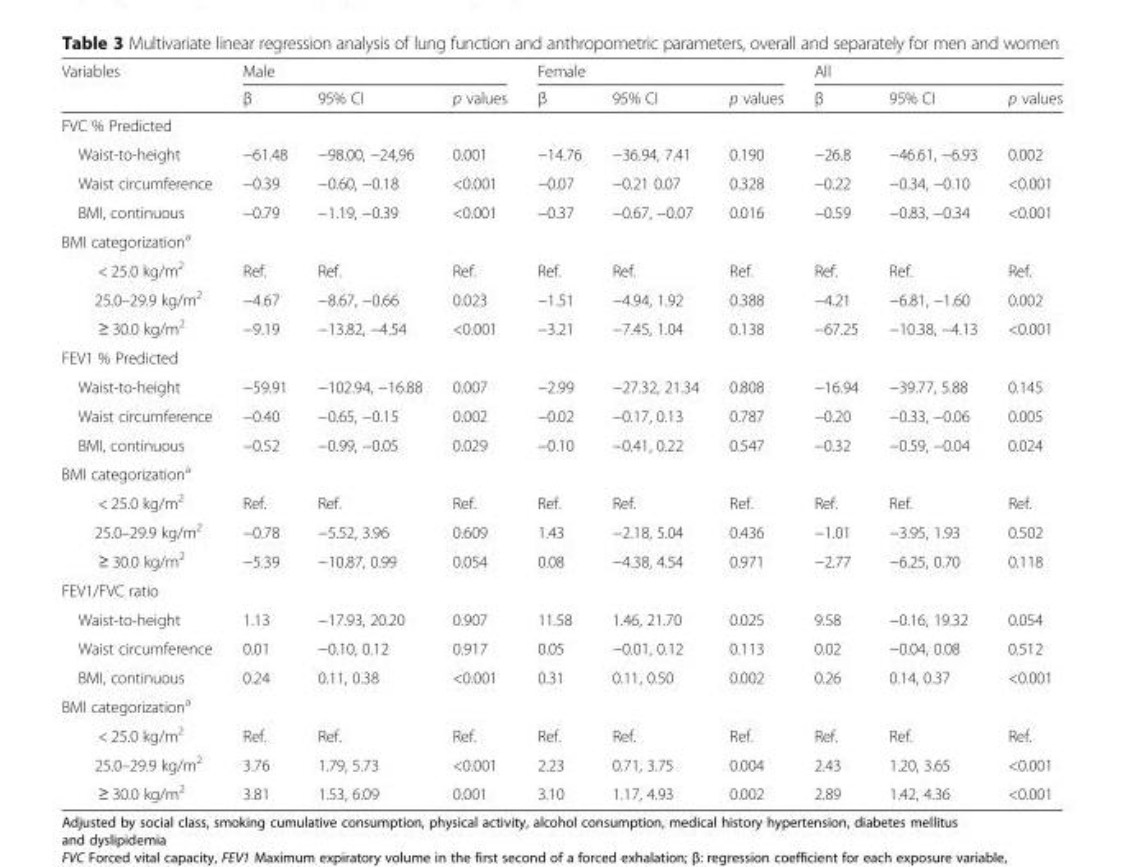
<table><thead><tr><td rowspan="2">Variables</td><td colspan="3">Male</td><td colspan="3">Female</td><td colspan="3">All</td></tr><tr><td>β</td><td>95% CI</td><td>p values</td><td>β</td><td>95% CI</td><td>p values</td><td>β</td><td>95% CI</td><td>p values</td></tr></thead><tbody><tr><td colspan="10">FVC % Predicted</td></tr><tr><td>Waist-to-height</td><td>−61.48</td><td>−98.00, −24,96</td><td>0.001</td><td>−14.76</td><td>−36.94, 7.41</td><td>0.190</td><td>−26.8</td><td>−46.61, −6.93</td><td>0.002</td></tr><tr><td>Waist circumference</td><td>−0.39</td><td>−0.60, −0.18</td><td>&lt;0.001</td><td>−0.07</td><td>−0.21 0.07</td><td>0.328</td><td>−0.22</td><td>−0.34, −0.10</td><td>&lt;0.001</td></tr><tr><td>BMI, continuous</td><td>−0.79</td><td>−1.19, −0.39</td><td>&lt;0.001</td><td>−0.37</td><td>−0.67, −0.07</td><td>0.016</td><td>−0.59</td><td>−0.83, −0.34</td><td>&lt;0.001</td></tr><tr><td colspan="10">BMI categorization<sup>a</sup></td></tr><tr><td>&lt; 25.0 kg/m<sup>2</sup></td><td>Ref.</td><td>Ref.</td><td>Ref.</td><td>Ref.</td><td>Ref.</td><td>Ref.</td><td>Ref.</td><td>Ref.</td><td>Ref.</td></tr><tr><td>25.0–29.9 kg/m<sup>2</sup></td><td>−4.67</td><td>−8.67, −0.66</td><td>0.023</td><td>−1.51</td><td>−4.94, 1.92</td><td>0.388</td><td>−4.21</td><td>−6.81, −1.60</td><td>0.002</td></tr><tr><td>≥ 30.0 kg/m<sup>2</sup></td><td>−9.19</td><td>−13.82, −4.54</td><td>&lt;0.001</td><td>−3.21</td><td>−7.45, 1.04</td><td>0.138</td><td>−67.25</td><td>−10.38, −4.13</td><td>&lt;0.001</td></tr><tr><td colspan="10">FEV1 % Predicted</td></tr><tr><td>Waist-to-height</td><td>−59.91</td><td>−102.94, −16.88</td><td>0.007</td><td>−2.99</td><td>−27.32, 21.34</td><td>0.808</td><td>−16.94</td><td>−39.77, 5.88</td><td>0.145</td></tr><tr><td>Waist circumference</td><td>−0.40</td><td>−0.65, −0.15</td><td>0.002</td><td>−0.02</td><td>−0.17, 0.13</td><td>0.787</td><td>−0.20</td><td>−0.33, −0.06</td><td>0.005</td></tr><tr><td>BMI, continuous</td><td>−0.52</td><td>−0.99, −0.05</td><td>0.029</td><td>−0.10</td><td>−0.41, 0.22</td><td>0.547</td><td>−0.32</td><td>−0.59, −0.04</td><td>0.024</td></tr><tr><td colspan="10">BMI categorization<sup>a</sup></td></tr><tr><td>&lt; 25.0 kg/m<sup>2</sup></td><td>Ref.</td><td>Ref.</td><td>Ref.</td><td>Ref.</td><td>Ref.</td><td>Ref.</td><td>Ref.</td><td>Ref.</td><td>Ref.</td></tr><tr><td>25.0–29.9 kg/m<sup>2</sup></td><td>−0.78</td><td>−5.52, 3.96</td><td>0.609</td><td>1.43</td><td>−2.18, 5.04</td><td>0.436</td><td>−1.01</td><td>−3.95, 1.93</td><td>0.502</td></tr><tr><td>≥ 30.0 kg/m<sup>2</sup></td><td>−5.39</td><td>−10.87, 0.99</td><td>0.054</td><td>0.08</td><td>−4.38, 4.54</td><td>0.971</td><td>−2.77</td><td>−6.25, 0.70</td><td>0.118</td></tr><tr><td colspan="10">FEV1/FVC ratio</td></tr><tr><td>Waist-to-height</td><td>1.13</td><td>−17.93, 20.20</td><td>0.907</td><td>11.58</td><td>1.46, 21.70</td><td>0.025</td><td>9.58</td><td>−0.16, 19.32</td><td>0.054</td></tr><tr><td>Waist circumference</td><td>0.01</td><td>−0.10, 0.12</td><td>0.917</td><td>0.05</td><td>−0.01, 0.12</td><td>0.113</td><td>0.02</td><td>−0.04, 0.08</td><td>0.512</td></tr><tr><td>BMI, continuous</td><td>0.24</td><td>0.11, 0.38</td><td>&lt;0.001</td><td>0.31</td><td>0.11, 0.50</td><td>0.002</td><td>0.26</td><td>0.14, 0.37</td><td>&lt;0.001</td></tr><tr><td colspan="10">BMI categorization<sup>a</sup></td></tr><tr><td>&lt; 25.0 kg/m<sup>2</sup></td><td>Ref.</td><td>Ref.</td><td>Ref.</td><td>Ref.</td><td>Ref.</td><td>Ref.</td><td>Ref.</td><td>Ref.</td><td>Ref.</td></tr><tr><td>25.0–29.9 kg/m<sup>2</sup></td><td>3.76</td><td>1.79, 5.73</td><td>&lt;0.001</td><td>2.23</td><td>0.71, 3.75</td><td>0.004</td><td>2.43</td><td>1.20, 3.65</td><td>&lt;0.001</td></tr><tr><td>≥ 30.0 kg/m<sup>2</sup></td><td>3.81</td><td>1.53, 6.09</td><td>0.001</td><td>3.10</td><td>1.17, 4.93</td><td>0.002</td><td>2.89</td><td>1.42, 4.36</td><td>&lt;0.001</td></tr></tbody></table>